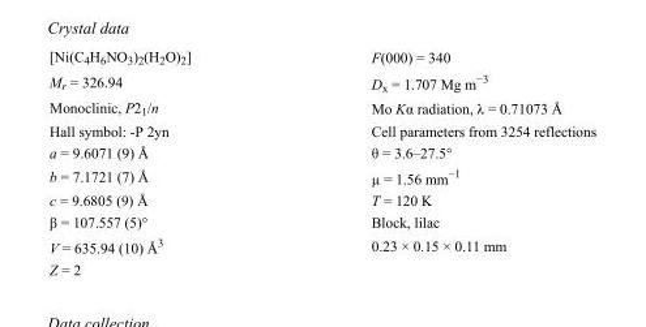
<table><tbody><tr><td>[Ni(C<sub>4</sub>H<sub>6</sub>NO<sub>3</sub>)<sub>2</sub>(H<sub>2</sub>O)<sub>2</sub>]</td><td>F(000) = 340</td></tr><tr><td>M<sub>r</sub> = 326.94</td><td>D<sub>x</sub> = 1.707 Mg m<sup>−3</sup></td></tr><tr><td>Monoclinic, P2<sub>1</sub>/n</td><td>Mo Kα radiation, λ = 0.71073 Å</td></tr><tr><td>Hall symbol: -P 2yn</td><td>Cell parameters from 3254 reflections</td></tr><tr><td>a = 9.6071 (9) Å</td><td>θ = 3.6–27.5°</td></tr><tr><td>b = 7.1721 (7) Å</td><td>µ = 1.56 mm<sup>−1</sup></td></tr><tr><td>c = 9.6805 (9) Å</td><td>T = 120 K</td></tr><tr><td>β = 107.557 (5)°</td><td>Block, lilac</td></tr><tr><td>V = 635.94 (10) Å<sup>3</sup></td><td>0.23 × 0.15 × 0.11 mm</td></tr><tr><td>Z = 2</td><td></td></tr></tbody></table>